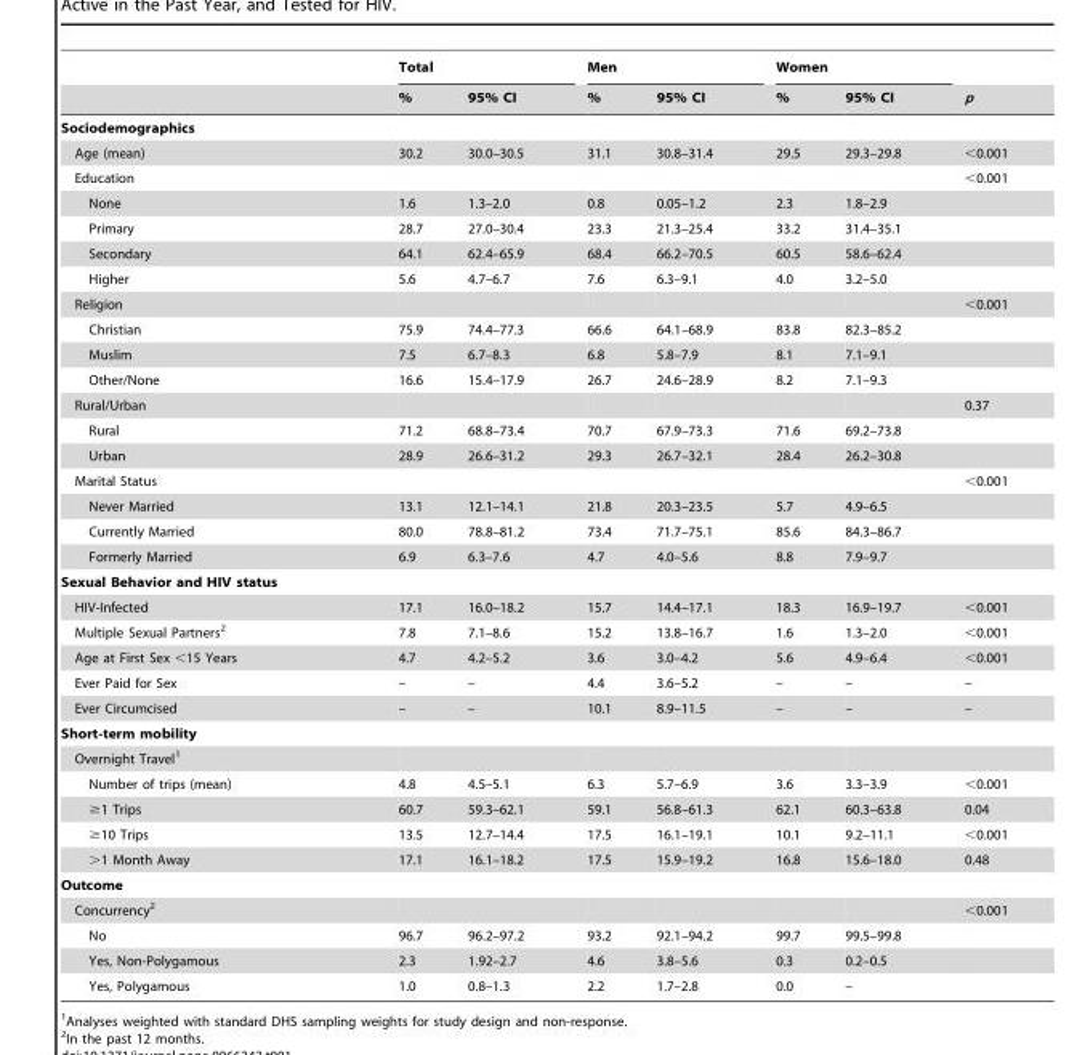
<table><thead><tr><td rowspan="2"></td><td colspan="2">Total</td><td colspan="2">Men</td><td colspan="2">Women</td><td rowspan="2">p</td></tr><tr><td>%</td><td>95% CI</td><td>%</td><td>95% CI</td><td>%</td><td>95% CI</td></tr></thead><tbody><tr><td colspan="8">Sociodemographics</td></tr><tr><td>Age (mean)</td><td>30.2</td><td>30.0–30.5</td><td>31.1</td><td>30.8–31.4</td><td>29.5</td><td>29.3–29.8</td><td>&lt;0.001</td></tr><tr><td>Education</td><td></td><td></td><td></td><td></td><td></td><td></td><td>&lt;0.001</td></tr><tr><td>None</td><td>1.6</td><td>1.3–2.0</td><td>0.8</td><td>0.05–1.2</td><td>2.3</td><td>1.8–2.9</td><td></td></tr><tr><td>Primary</td><td>28.7</td><td>27.0–30.4</td><td>23.3</td><td>21.3–25.4</td><td>33.2</td><td>31.4–35.1</td><td></td></tr><tr><td>Secondary</td><td>64.1</td><td>62.4–65.9</td><td>68.4</td><td>66.2–70.5</td><td>60.5</td><td>58.6–62.4</td><td></td></tr><tr><td>Higher</td><td>5.6</td><td>4.7–6.7</td><td>7.6</td><td>6.3–9.1</td><td>4.0</td><td>3.2–5.0</td><td></td></tr><tr><td>Religion</td><td></td><td></td><td></td><td></td><td></td><td></td><td>&lt;0.001</td></tr><tr><td>Christian</td><td>75.9</td><td>74.4–77.3</td><td>66.6</td><td>64.1–68.9</td><td>83.8</td><td>82.3–85.2</td><td></td></tr><tr><td>Muslim</td><td>7.5</td><td>6.7–8.3</td><td>6.8</td><td>5.8–7.9</td><td>8.1</td><td>7.1–9.1</td><td></td></tr><tr><td>Other/None</td><td>16.6</td><td>15.4–17.9</td><td>26.7</td><td>24.6–28.9</td><td>8.2</td><td>7.1–9.3</td><td></td></tr><tr><td>Rural/Urban</td><td></td><td></td><td></td><td></td><td></td><td></td><td>0.37</td></tr><tr><td>Rural</td><td>71.2</td><td>68.8–73.4</td><td>70.7</td><td>67.9–73.3</td><td>71.6</td><td>69.2–73.8</td><td></td></tr><tr><td>Urban</td><td>28.9</td><td>26.6–31.2</td><td>29.3</td><td>26.7–32.1</td><td>28.4</td><td>26.2–30.8</td><td></td></tr><tr><td>Marital Status</td><td></td><td></td><td></td><td></td><td></td><td></td><td>&lt;0.001</td></tr><tr><td>Never Married</td><td>13.1</td><td>12.1–14.1</td><td>21.8</td><td>20.3–23.5</td><td>5.7</td><td>4.9–6.5</td><td></td></tr><tr><td>Currently Married</td><td>80.0</td><td>78.8–81.2</td><td>73.4</td><td>71.7–75.1</td><td>85.6</td><td>84.3–86.7</td><td></td></tr><tr><td>Formerly Married</td><td>6.9</td><td>6.3–7.6</td><td>4.7</td><td>4.0–5.6</td><td>8.8</td><td>7.9–9.7</td><td></td></tr><tr><td colspan="8">Sexual Behavior and HIV status</td></tr><tr><td>HIV-Infected</td><td>17.1</td><td>16.0–18.2</td><td>15.7</td><td>14.4–17.1</td><td>18.3</td><td>16.9–19.7</td><td>&lt;0.001</td></tr><tr><td>Multiple Sexual Partners<sup>2</sup></td><td>7.8</td><td>7.1–8.6</td><td>15.2</td><td>13.8–16.7</td><td>1.6</td><td>1.3–2.0</td><td>&lt;0.001</td></tr><tr><td>Age at First Sex &lt;15 Years</td><td>4.7</td><td>4.2–5.2</td><td>3.6</td><td>3.0–4.2</td><td>5.6</td><td>4.9–6.4</td><td>&lt;0.001</td></tr><tr><td>Ever Paid for Sex</td><td>–</td><td>–</td><td>4.4</td><td>3.6–5.2</td><td>–</td><td>–</td><td>–</td></tr><tr><td>Ever Circumcised</td><td>–</td><td>–</td><td>10.1</td><td>8.9–11.5</td><td>–</td><td>–</td><td>–</td></tr><tr><td colspan="8">Short-term mobility</td></tr><tr><td colspan="8">Overnight Travel<sup>1</sup></td></tr><tr><td>Number of trips (mean)</td><td>4.8</td><td>4.5–5.1</td><td>6.3</td><td>5.7–6.9</td><td>3.6</td><td>3.3–3.9</td><td>&lt;0.001</td></tr><tr><td>≥1 Trips</td><td>60.7</td><td>59.3–62.1</td><td>59.1</td><td>56.8–61.3</td><td>62.1</td><td>60.3–63.8</td><td>0.04</td></tr><tr><td>≥10 Trips</td><td>13.5</td><td>12.7–14.4</td><td>17.5</td><td>16.1–19.1</td><td>10.1</td><td>9.2–11.1</td><td>&lt;0.001</td></tr><tr><td>&gt;1 Month Away</td><td>17.1</td><td>16.1–18.2</td><td>17.5</td><td>15.9–19.2</td><td>16.8</td><td>15.6–18.0</td><td>0.48</td></tr><tr><td colspan="8">Outcome</td></tr><tr><td>Concurrency<sup>2</sup></td><td></td><td></td><td></td><td></td><td></td><td></td><td>&lt;0.001</td></tr><tr><td>No</td><td>96.7</td><td>96.2–97.2</td><td>93.2</td><td>92.1–94.2</td><td>99.7</td><td>99.5–99.8</td><td></td></tr><tr><td>Yes, Non-Polygamous</td><td>2.3</td><td>1.92–2.7</td><td>4.6</td><td>3.8–5.6</td><td>0.3</td><td>0.2–0.5</td><td></td></tr><tr><td>Yes, Polygamous</td><td>1.0</td><td>0.8–1.3</td><td>2.2</td><td>1.7–2.8</td><td>0.0</td><td>–</td><td></td></tr></tbody></table>